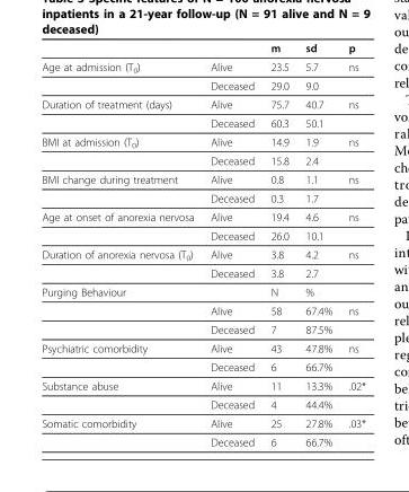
<table><thead><tr><td></td><td></td><td>m</td><td>sd</td><td>p</td></tr></thead><tbody><tr><td rowspan="2">Age at admission (T<sub>0</sub>)</td><td>Alive</td><td>23.5</td><td>5.7</td><td>ns</td></tr><tr><td>Deceased</td><td>29.0</td><td>9.0</td><td></td></tr><tr><td rowspan="2">Duration of treatment (days)</td><td>Alive</td><td>75.7</td><td>40.7</td><td>ns</td></tr><tr><td>Deceased</td><td>60.3</td><td>50.1</td><td></td></tr><tr><td rowspan="2">BMI at admission (T<sub>0</sub>)</td><td>Alive</td><td>14.9</td><td>1.9</td><td>ns</td></tr><tr><td>Deceased</td><td>15.8</td><td>2.4</td><td></td></tr><tr><td rowspan="2">BMI change during treatment</td><td>Alive</td><td>0.8</td><td>1.1</td><td>ns</td></tr><tr><td>Deceased</td><td>0.3</td><td>1.7</td><td></td></tr><tr><td rowspan="2">Age at onset of anorexia nervosa</td><td>Alive</td><td>19.4</td><td>4.6</td><td>ns</td></tr><tr><td>Deceased</td><td>26.0</td><td>10.1</td><td></td></tr><tr><td rowspan="2">Duration of anorexia nervosa (T<sub>0</sub>)</td><td>Alive</td><td>3.8</td><td>4.2</td><td>ns</td></tr><tr><td>Deceased</td><td>3.8</td><td>2.7</td><td></td></tr><tr><td rowspan="3">Purging Behaviour</td><td></td><td>N</td><td>%</td><td></td></tr><tr><td>Alive</td><td>58</td><td>67.4%</td><td>ns</td></tr><tr><td>Deceased</td><td>7</td><td>87.5%</td><td></td></tr><tr><td rowspan="2">Psychiatric comorbidity</td><td>Alive</td><td>43</td><td>47.8%</td><td>ns</td></tr><tr><td>Deceased</td><td>6</td><td>66.7%</td><td></td></tr><tr><td rowspan="2">Substance abuse</td><td>Alive</td><td>11</td><td>13.3%</td><td>.02*</td></tr><tr><td>Deceased</td><td>4</td><td>44.4%</td><td></td></tr><tr><td rowspan="2">Somatic comorbidity</td><td>Alive</td><td>25</td><td>27.8%</td><td>.03*</td></tr><tr><td>Deceased</td><td>6</td><td>66.7%</td><td></td></tr></tbody></table>